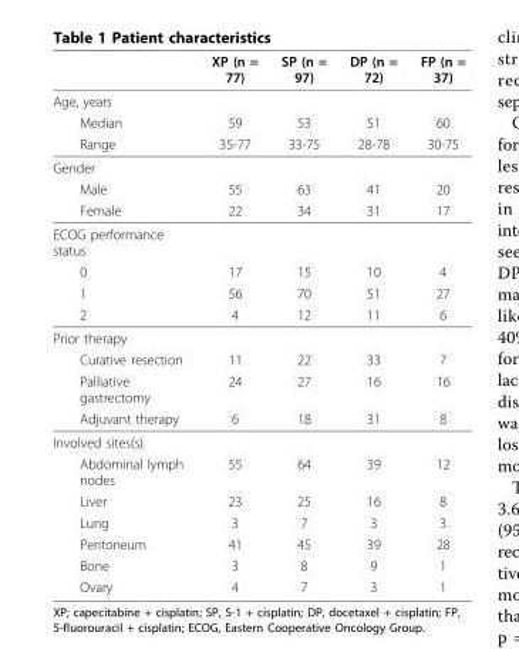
<table><thead><tr><td></td><td>XP (n = 77)</td><td>SP (n = 97)</td><td>DP (n = 72)</td><td>FP (n = 37)</td></tr></thead><tbody><tr><td colspan="5">Age, years</td></tr><tr><td>Median</td><td>59</td><td>53</td><td>51</td><td>60</td></tr><tr><td>Range</td><td>35-77</td><td>33-75</td><td>28-78</td><td>30-75</td></tr><tr><td colspan="5">Gender</td></tr><tr><td>Male</td><td>55</td><td>63</td><td>41</td><td>20</td></tr><tr><td>Female</td><td>22</td><td>34</td><td>31</td><td>17</td></tr><tr><td colspan="5">ECOG performance status</td></tr><tr><td>0</td><td>17</td><td>15</td><td>10</td><td>4</td></tr><tr><td>1</td><td>56</td><td>70</td><td>51</td><td>27</td></tr><tr><td>2</td><td>4</td><td>12</td><td>11</td><td>6</td></tr><tr><td colspan="5">Prior therapy</td></tr><tr><td>Curative resection</td><td>11</td><td>22</td><td>33</td><td>7</td></tr><tr><td>Palliative gastrectomy</td><td>24</td><td>27</td><td>16</td><td>16</td></tr><tr><td>Adjuvant therapy</td><td>6</td><td>18</td><td>31</td><td>8</td></tr><tr><td colspan="5">Involved sites(s)</td></tr><tr><td>Abdominal lymph nodes</td><td>55</td><td>64</td><td>39</td><td>12</td></tr><tr><td>Liver</td><td>23</td><td>25</td><td>16</td><td>8</td></tr><tr><td>Lung</td><td>3</td><td>7</td><td>3</td><td>3</td></tr><tr><td>Peritoneum</td><td>41</td><td>45</td><td>39</td><td>28</td></tr><tr><td>Bone</td><td>3</td><td>8</td><td>9</td><td>1</td></tr><tr><td>Ovary</td><td>4</td><td>7</td><td>3</td><td>1</td></tr></tbody></table>